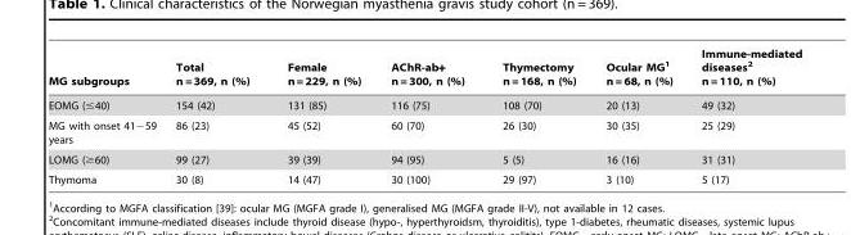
<table><thead><tr><td>MG subgroups</td><td>Total n = 369, n (%)</td><td>Female n = 229, n (%)</td><td>AChR-ab+ n = 300, n (%)</td><td>Thymectomy n = 168, n (%)</td><td>Ocular MG<sup>1</sup> n = 68, n (%)</td><td>Immune-mediated diseases<sup>2</sup> n = 110, n (%)</td></tr></thead><tbody><tr><td>EOMG (≤40)</td><td>154 (42)</td><td>131 (85)</td><td>116 (75)</td><td>108 (70)</td><td>20 (13)</td><td>49 (32)</td></tr><tr><td>MG with onset 41−59 years</td><td>86 (23)</td><td>45 (52)</td><td>60 (70)</td><td>26 (30)</td><td>30 (35)</td><td>25 (29)</td></tr><tr><td>LOMG (≥60)</td><td>99 (27)</td><td>39 (39)</td><td>94 (95)</td><td>5 (5)</td><td>16 (16)</td><td>31 (31)</td></tr><tr><td>Thymoma</td><td>30 (8)</td><td>14 (47)</td><td>30 (100)</td><td>29 (97)</td><td>3 (10)</td><td>5 (17)</td></tr></tbody></table>